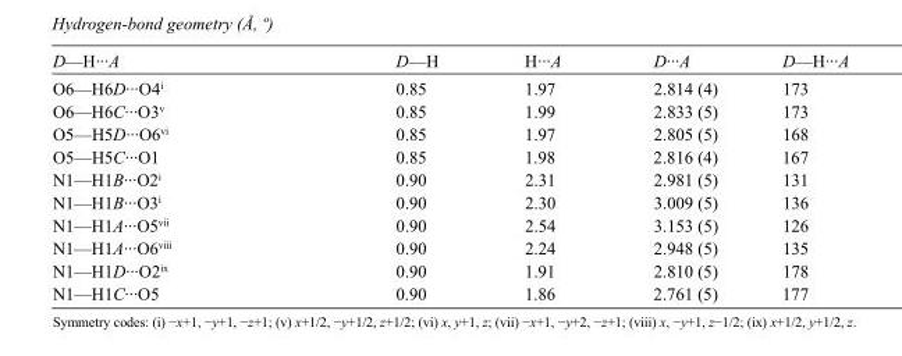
<table><tbody><tr><td>D—H···A</td><td>D—H</td><td>H···A</td><td>D···A</td><td>D—H···A</td></tr><tr><td>O6—H6D···O4<sup>i</sup></td><td>0.85</td><td>1.97</td><td>2.814 (4)</td><td>173</td></tr><tr><td>O6—H6C···O3<sup>v</sup></td><td>0.85</td><td>1.99</td><td>2.833 (5)</td><td>173</td></tr><tr><td>O5—H5D···O6<sup>vi</sup></td><td>0.85</td><td>1.97</td><td>2.805 (5)</td><td>168</td></tr><tr><td>O5—H5C···O1</td><td>0.85</td><td>1.98</td><td>2.816 (4)</td><td>167</td></tr><tr><td>N1—H1B···O2<sup>i</sup></td><td>0.90</td><td>2.31</td><td>2.981 (5)</td><td>131</td></tr><tr><td>N1—H1B···O3<sup>i</sup></td><td>0.90</td><td>2.30</td><td>3.009 (5)</td><td>136</td></tr><tr><td>N1—H1A···O5<sup>vii</sup></td><td>0.90</td><td>2.54</td><td>3.153 (5)</td><td>126</td></tr><tr><td>N1—H1A···O6<sup>viii</sup></td><td>0.90</td><td>2.24</td><td>2.948 (5)</td><td>135</td></tr><tr><td>N1—H1D···O2<sup>ix</sup></td><td>0.90</td><td>1.91</td><td>2.810 (5)</td><td>178</td></tr><tr><td>N1—H1C···O5</td><td>0.90</td><td>1.86</td><td>2.761 (5)</td><td>177</td></tr></tbody></table>